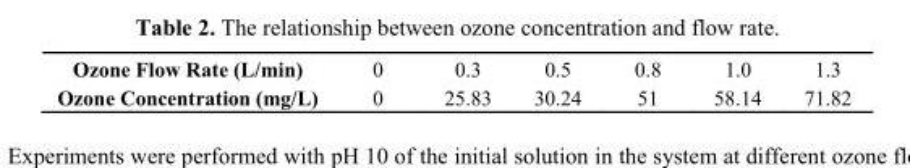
<table><tbody><tr><td>Ozone Flow Rate (L/min)</td><td>0</td><td>0.3</td><td>0.5</td><td>0.8</td><td>1.0</td><td>1.3</td></tr><tr><td>Ozone Concentration (mg/L)</td><td>0</td><td>25.83</td><td>30.24</td><td>51</td><td>58.14</td><td>71.82</td></tr></tbody></table>